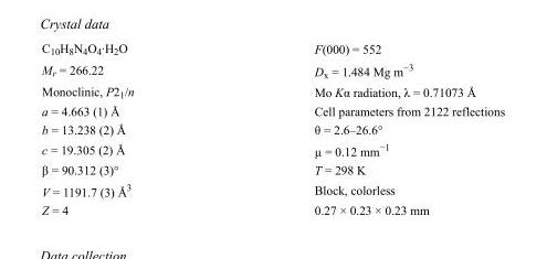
<table><tbody><tr><td>C<sub>10</sub>H<sub>8</sub>N<sub>4</sub>O<sub>4</sub>·H<sub>2</sub>O</td><td>F(000) = 552</td></tr><tr><td>M<sub>r</sub> = 266.22</td><td>D<sub>x</sub> = 1.484 Mg m<sup>−3</sup></td></tr><tr><td>Monoclinic, P2<sub>1</sub>/n</td><td>Mo Kα radiation, λ = 0.71073 Å</td></tr><tr><td>a = 4.663 (1) Å</td><td>Cell parameters from 2122 reflections</td></tr><tr><td>b = 13.238 (2) Å</td><td>θ = 2.6–26.6°</td></tr><tr><td>c = 19.305 (2) Å</td><td>µ = 0.12 mm<sup>−1</sup></td></tr><tr><td>β = 90.312 (3)°</td><td>T = 298 K</td></tr><tr><td>V = 1191.7 (3) Å<sup>3</sup></td><td>Block, colorless</td></tr><tr><td>Z = 4</td><td>0.27 × 0.23 × 0.23 mm</td></tr></tbody></table>